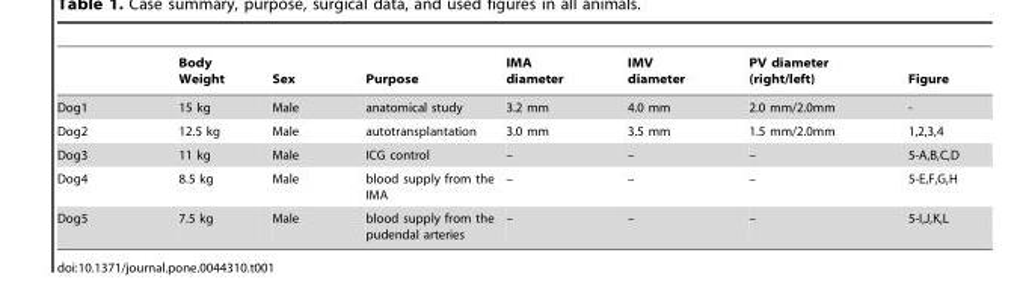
<table><thead><tr><td></td><td>Body Weight</td><td>Sex</td><td>Purpose</td><td>IMA diameter</td><td>IMV diameter</td><td>PV diameter (right/left)</td><td>Figure</td></tr></thead><tbody><tr><td>Dog1</td><td>15 kg</td><td>Male</td><td>anatomical study</td><td>3.2 mm</td><td>4.0 mm</td><td>2.0 mm/2.0mm</td><td>-</td></tr><tr><td>Dog2</td><td>12.5 kg</td><td>Male</td><td>autotransplantation</td><td>3.0 mm</td><td>3.5 mm</td><td>1.5 mm/2.0mm</td><td>1,2,3,4</td></tr><tr><td>Dog3</td><td>11 kg</td><td>Male</td><td>ICG control</td><td>–</td><td>–</td><td>–</td><td>5-A,B,C,D</td></tr><tr><td>Dog4</td><td>8.5 kg</td><td>Male</td><td>blood supply from the IMA</td><td>–</td><td>–</td><td>–</td><td>5-E,F,G,H</td></tr><tr><td>Dog5</td><td>7.5 kg</td><td>Male</td><td>blood supply from the pudendal arteries</td><td>–</td><td>–</td><td>–</td><td>5-I,J,K,L</td></tr></tbody></table>